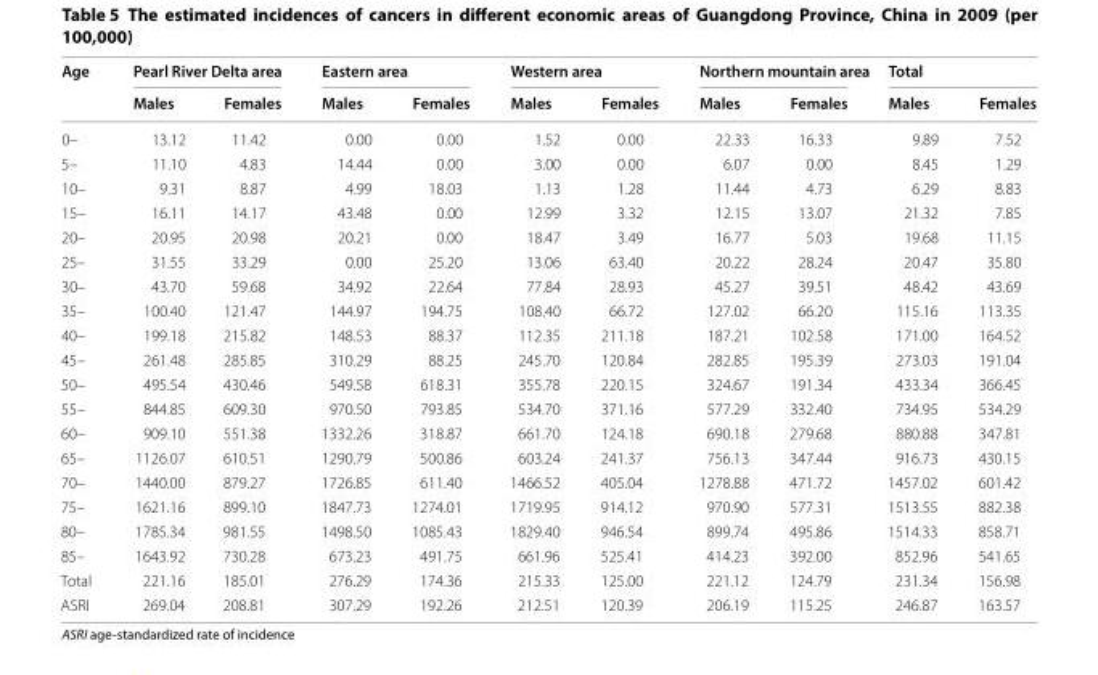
<table><thead><tr><td rowspan="2">Age</td><td colspan="2">Pearl River Delta area</td><td colspan="2">Eastern area</td><td colspan="2">Western area</td><td colspan="2">Northern mountain area</td><td colspan="2">Total</td></tr><tr><td>Males</td><td>Females</td><td>Males</td><td>Females</td><td>Males</td><td>Females</td><td>Males</td><td>Females</td><td>Males</td><td>Females</td></tr></thead><tbody><tr><td>0–</td><td>13.12</td><td>11.42</td><td>0.00</td><td>0.00</td><td>1.52</td><td>0.00</td><td>22.33</td><td>16.33</td><td>9.89</td><td>7.52</td></tr><tr><td>5–</td><td>11.10</td><td>4.83</td><td>14.44</td><td>0.00</td><td>3.00</td><td>0.00</td><td>6.07</td><td>0.00</td><td>8.45</td><td>1.29</td></tr><tr><td>10–</td><td>9.31</td><td>8.87</td><td>4.99</td><td>18.03</td><td>1.13</td><td>1.28</td><td>11.44</td><td>4.73</td><td>6.29</td><td>8.83</td></tr><tr><td>15–</td><td>16.11</td><td>14.17</td><td>43.48</td><td>0.00</td><td>12.99</td><td>3.32</td><td>12.15</td><td>13.07</td><td>21.32</td><td>7.85</td></tr><tr><td>20–</td><td>20.95</td><td>20.98</td><td>20.21</td><td>0.00</td><td>18.47</td><td>3.49</td><td>16.77</td><td>5.03</td><td>19.68</td><td>11.15</td></tr><tr><td>25–</td><td>31.55</td><td>33.29</td><td>0.00</td><td>25.20</td><td>13.06</td><td>63.40</td><td>20.22</td><td>28.24</td><td>20.47</td><td>35.80</td></tr><tr><td>30–</td><td>43.70</td><td>59.68</td><td>34.92</td><td>22.64</td><td>77.84</td><td>28.93</td><td>45.27</td><td>39.51</td><td>48.42</td><td>43.69</td></tr><tr><td>35–</td><td>100.40</td><td>121.47</td><td>144.97</td><td>194.75</td><td>108.40</td><td>66.72</td><td>127.02</td><td>66.20</td><td>115.16</td><td>113.35</td></tr><tr><td>40–</td><td>199.18</td><td>215.82</td><td>148.53</td><td>88.37</td><td>112.35</td><td>211.18</td><td>187.21</td><td>102.58</td><td>171.00</td><td>164.52</td></tr><tr><td>45–</td><td>261.48</td><td>285.85</td><td>310.29</td><td>88.25</td><td>245.70</td><td>120.84</td><td>282.85</td><td>195.39</td><td>273.03</td><td>191.04</td></tr><tr><td>50–</td><td>495.54</td><td>430.46</td><td>549.58</td><td>618.31</td><td>355.78</td><td>220.15</td><td>324.67</td><td>191.34</td><td>433.34</td><td>366.45</td></tr><tr><td>55–</td><td>844.85</td><td>609.30</td><td>970.50</td><td>793.85</td><td>534.70</td><td>371.16</td><td>577.29</td><td>332.40</td><td>734.95</td><td>534.29</td></tr><tr><td>60–</td><td>909.10</td><td>551.38</td><td>1332.26</td><td>318.87</td><td>661.70</td><td>124.18</td><td>690.18</td><td>279.68</td><td>880.88</td><td>347.81</td></tr><tr><td>65–</td><td>1126.07</td><td>610.51</td><td>1290.79</td><td>500.86</td><td>603.24</td><td>241.37</td><td>756.13</td><td>347.44</td><td>916.73</td><td>430.15</td></tr><tr><td>70–</td><td>1440.00</td><td>879.27</td><td>1726.85</td><td>611.40</td><td>1466.52</td><td>405.04</td><td>1278.88</td><td>471.72</td><td>1457.02</td><td>601.42</td></tr><tr><td>75–</td><td>1621.16</td><td>899.10</td><td>1847.73</td><td>1274.01</td><td>1719.95</td><td>914.12</td><td>970.90</td><td>577.31</td><td>1513.55</td><td>882.38</td></tr><tr><td>80–</td><td>1785.34</td><td>981.55</td><td>1498.50</td><td>1085.43</td><td>1829.40</td><td>946.54</td><td>899.74</td><td>495.86</td><td>1514.33</td><td>858.71</td></tr><tr><td>85–</td><td>1643.92</td><td>730.28</td><td>673.23</td><td>491.75</td><td>661.96</td><td>525.41</td><td>414.23</td><td>392.00</td><td>852.96</td><td>541.65</td></tr><tr><td>Total</td><td>221.16</td><td>185.01</td><td>276.29</td><td>174.36</td><td>215.33</td><td>125.00</td><td>221.12</td><td>124.79</td><td>231.34</td><td>156.98</td></tr><tr><td>ASRI</td><td>269.04</td><td>208.81</td><td>307.29</td><td>192.26</td><td>212.51</td><td>120.39</td><td>206.19</td><td>115.25</td><td>246.87</td><td>163.57</td></tr></tbody></table>